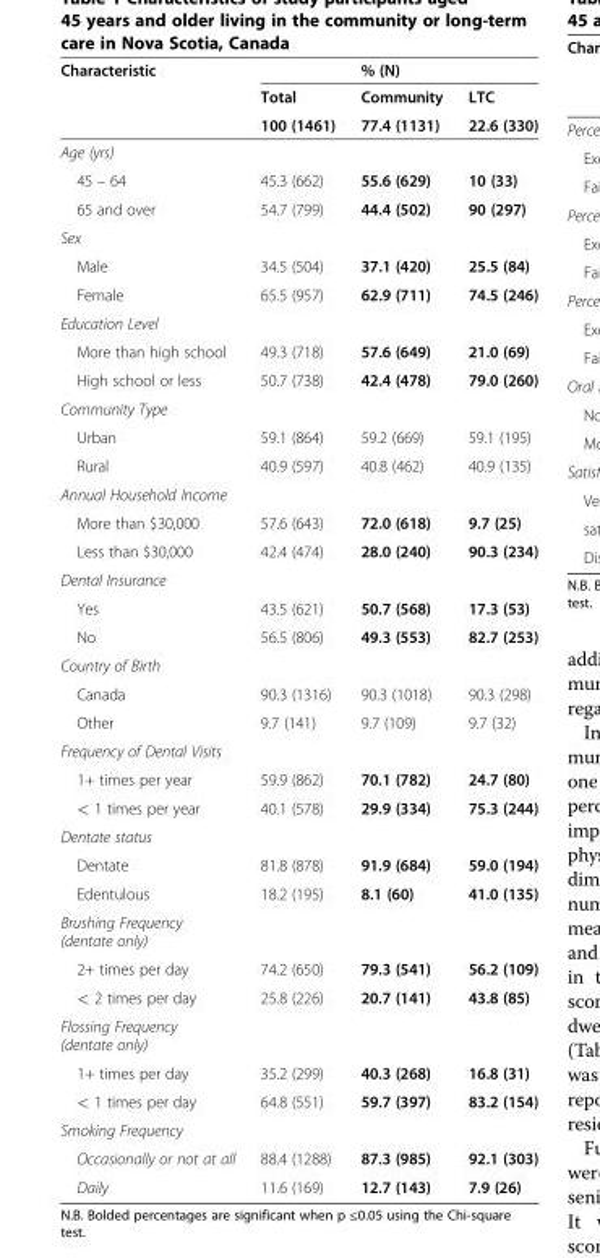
<table><thead><tr><td rowspan="2">Characteristic</td><td rowspan="2">Total</td><td colspan="2">% (N)</td></tr><tr><td>Community</td><td>LTC</td></tr></thead><tbody><tr><td></td><td>100 (1461)</td><td>77.4 (1131)</td><td>22.6 (330)</td></tr><tr><td colspan="4">Age (yrs)</td></tr><tr><td>45 – 64</td><td>45.3 (662)</td><td>55.6 (629)</td><td>10 (33)</td></tr><tr><td>65 and over</td><td>54.7 (799)</td><td>44.4 (502)</td><td>90 (297)</td></tr><tr><td colspan="4">Sex</td></tr><tr><td>Male</td><td>34.5 (504)</td><td>37.1 (420)</td><td>25.5 (84)</td></tr><tr><td>Female</td><td>65.5 (957)</td><td>62.9 (711)</td><td>74.5 (246)</td></tr><tr><td colspan="4">Education Level</td></tr><tr><td>More than high school</td><td>49.3 (718)</td><td>57.6 (649)</td><td>21.0 (69)</td></tr><tr><td>High school or less</td><td>50.7 (738)</td><td>42.4 (478)</td><td>79.0 (260)</td></tr><tr><td colspan="4">Community Type</td></tr><tr><td>Urban</td><td>59.1 (864)</td><td>59.2 (669)</td><td>59.1 (195)</td></tr><tr><td>Rural</td><td>40.9 (597)</td><td>40.8 (462)</td><td>40.9 (135)</td></tr><tr><td colspan="4">Annual Household Income</td></tr><tr><td>More than $30,000</td><td>57.6 (643)</td><td>72.0 (618)</td><td>9.7 (25)</td></tr><tr><td>Less than $30,000</td><td>42.4 (474)</td><td>28.0 (240)</td><td>90.3 (234)</td></tr><tr><td colspan="4">Dental Insurance</td></tr><tr><td>Yes</td><td>43.5 (621)</td><td>50.7 (568)</td><td>17.3 (53)</td></tr><tr><td>No</td><td>56.5 (806)</td><td>49.3 (553)</td><td>82.7 (253)</td></tr><tr><td colspan="4">Country of Birth</td></tr><tr><td>Canada</td><td>90.3 (1316)</td><td>90.3 (1018)</td><td>90.3 (298)</td></tr><tr><td>Other</td><td>9.7 (141)</td><td>9.7 (109)</td><td>9.7 (32)</td></tr><tr><td colspan="4">Frequency of Dental Visits</td></tr><tr><td>1+ times per year</td><td>59.9 (862)</td><td>70.1 (782)</td><td>24.7 (80)</td></tr><tr><td>&lt; 1 times per year</td><td>40.1 (578)</td><td>29.9 (334)</td><td>75.3 (244)</td></tr><tr><td colspan="4">Dentate status</td></tr><tr><td>Dentate</td><td>81.8 (878)</td><td>91.9 (684)</td><td>59.0 (194)</td></tr><tr><td>Edentulous</td><td>18.2 (195)</td><td>8.1 (60)</td><td>41.0 (135)</td></tr><tr><td colspan="4">Brushing Frequency (dentate only)</td></tr><tr><td>2+ times per day</td><td>74.2 (650)</td><td>79.3 (541)</td><td>56.2 (109)</td></tr><tr><td>&lt; 2 times per day</td><td>25.8 (226)</td><td>20.7 (141)</td><td>43.8 (85)</td></tr><tr><td colspan="4">Flossing Frequency (dentate only)</td></tr><tr><td>1+ times per day</td><td>35.2 (299)</td><td>40.3 (268)</td><td>16.8 (31)</td></tr><tr><td>&lt; 1 times per day</td><td>64.8 (551)</td><td>59.7 (397)</td><td>83.2 (154)</td></tr><tr><td colspan="4">Smoking Frequency</td></tr><tr><td>Occasionally or not at all</td><td>88.4 (1288)</td><td>87.3 (985)</td><td>92.1 (303)</td></tr><tr><td>Daily</td><td>11.6 (169)</td><td>12.7 (143)</td><td>7.9 (26)</td></tr></tbody></table>